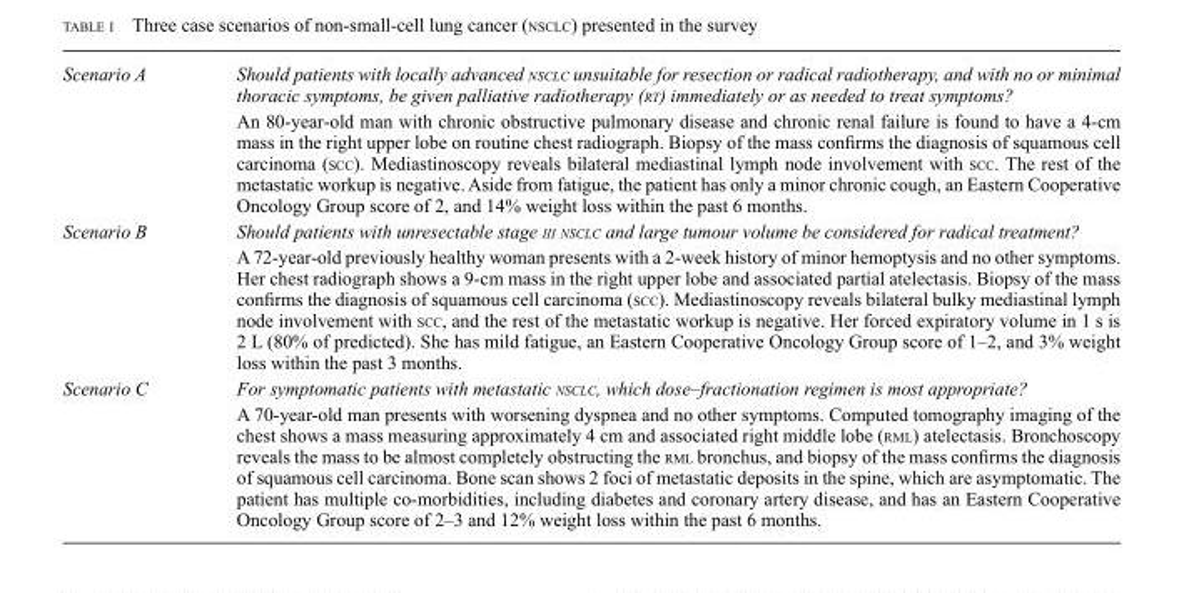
<table><tbody><tr><td>Scenario A</td><td>Should patients with locally advanced nsClC unsuitable for resection or radical radiotherapy, and with no or minimal thoracic symptoms, be given palliative radiotherapy (rt) immediately or as needed to treat symptoms? An 80-year-old man with chronic obstructive pulmonary disease and chronic renal failure is found to have a 4-cm mass in the right upper lobe on routine chest radiograph. Biopsy of the mass confirms the diagnosis of squamous cell carcinoma (scc). Mediastinoscopy reveals bilateral mediastinal lymph node involvement with scc. The rest of the metastatic workup is negative. Aside from fatigue, the patient has only a minor chronic cough, an Eastern Cooperative Oncology Group score of 2, and 14% weight loss within the past 6 months.</td></tr><tr><td>Scenario B</td><td>Should patients with unresectable stage iii nsClC and large tumour volume be considered for radical treatment? A 72-year-old previously healthy woman presents with a 2-week history of minor hemoptysis and no other symptoms. Her chest radiograph shows a 9-cm mass in the right upper lobe and associated partial atelectasis. Biopsy of the mass confirms the diagnosis of squamous cell carcinoma (scc). Mediastinoscopy reveals bilateral bulky mediastinal lymph node involvement with scc, and the rest of the metastatic workup is negative. Her forced expiratory volume in 1 s is 2 L (80% of predicted). She has mild fatigue, an Eastern Cooperative Oncology Group score of 1–2, and 3% weight loss within the past 3 months.</td></tr><tr><td>Scenario C</td><td>For symptomatic patients with metastatic nsClC, which dose–fractionation regimen is most appropriate? A 70-year-old man presents with worsening dyspnea and no other symptoms. Computed tomography imaging of the chest shows a mass measuring approximately 4 cm and associated right middle lobe (rml) atelectasis. Bronchoscopy reveals the mass to be almost completely obstructing the rml bronchus, and biopsy of the mass confirms the diagnosis of squamous cell carcinoma. Bone scan shows 2 foci of metastatic deposits in the spine, which are asymptomatic. The patient has multiple co-morbidities, including diabetes and coronary artery disease, and has an Eastern Cooperative Oncology Group score of 2–3 and 12% weight loss within the past 6 months.</td></tr></tbody></table>